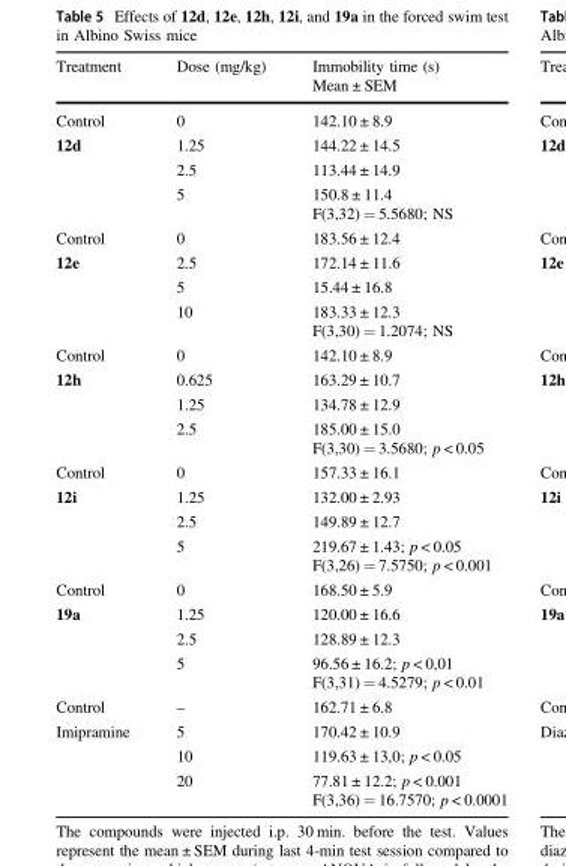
<table><thead><tr><td>Treatment</td><td>Dose (mg/kg)</td><td>Immobility time (s) Mean ± SEM</td></tr></thead><tbody><tr><td>Control</td><td>0</td><td>142.10 ± 8.9</td></tr><tr><td rowspan="3">12d</td><td>1.25</td><td>144.22 ± 14.5</td></tr><tr><td>2.5</td><td>113.44 ± 14.9</td></tr><tr><td>5</td><td>150.8 ± 11.4 F(3,32) = 5.5680; NS</td></tr><tr><td>Control</td><td>0</td><td>183.56 ± 12.4</td></tr><tr><td rowspan="3">12e</td><td>2.5</td><td>172.14 ± 11.6</td></tr><tr><td>5</td><td>15.44 ± 16.8</td></tr><tr><td>10</td><td>183.33 ± 12.3 F(3,30) = 1.2074; NS</td></tr><tr><td>Control</td><td>0</td><td>142.10 ± 8.9</td></tr><tr><td rowspan="3">12h</td><td>0.625</td><td>163.29 ± 10.7</td></tr><tr><td>1.25</td><td>134.78 ± 12.9</td></tr><tr><td>2.5</td><td>185.00 ± 15.0 F(3,30) = 3.5680; p &lt; 0.05</td></tr><tr><td>Control</td><td>0</td><td>157.33 ± 16.1</td></tr><tr><td rowspan="3">12i</td><td>1.25</td><td>132.00 ± 2.93</td></tr><tr><td>2.5</td><td>149.89 ± 12.7</td></tr><tr><td>5</td><td>219.67 ± 1.43; p &lt; 0.05 F(3,26) = 7.5750; p &lt; 0.001</td></tr><tr><td>Control</td><td>0</td><td>168.50 ± 5.9</td></tr><tr><td rowspan="3">19a</td><td>1.25</td><td>120.00 ± 16.6</td></tr><tr><td>2.5</td><td>128.89 ± 12.3</td></tr><tr><td>5</td><td>96.56 ± 16.2; p &lt; 0,01 F(3,31) = 4.5279; p &lt; 0.01</td></tr><tr><td>Control</td><td>–</td><td>162.71 ± 6.8</td></tr><tr><td rowspan="3">Imipramine</td><td>5</td><td>170.42 ± 10.9</td></tr><tr><td>10</td><td>119.63 ± 13,0; p &lt; 0.05</td></tr><tr><td>20</td><td>77.81 ± 12.2; p &lt; 0.001 F(3,36) = 16.7570; p &lt; 0.0001</td></tr></tbody></table>